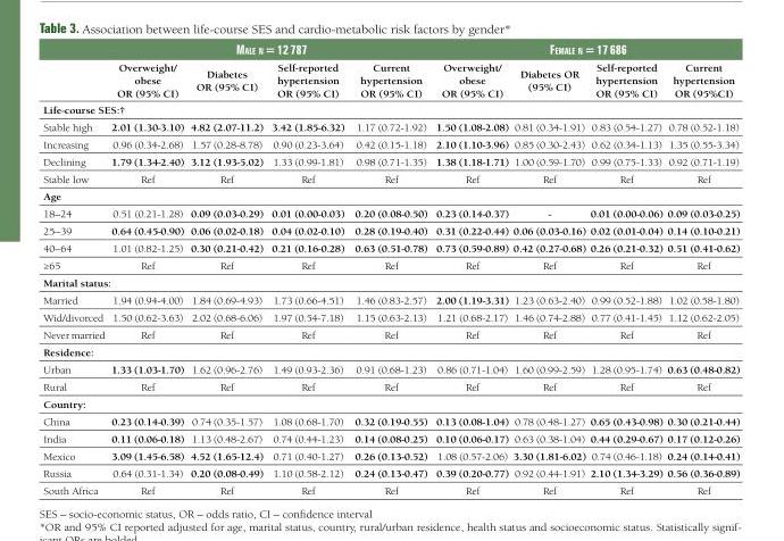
<table><thead><tr><td rowspan="2"></td><td colspan="4">Male n = 12 787</td><td colspan="4">feMale n = 17 686</td></tr><tr><td>Overweight/ obese OR (95% CI)</td><td>Diabetes OR (95% CI)</td><td>Self-reported hypertension OR (95% CI)</td><td>Current hypertension OR (95% CI)</td><td>Overweight/ obese OR (95% CI)</td><td>Diabetes OR (95% CI)</td><td>Self-reported hypertension OR (95% CI)</td><td>Current hypertension OR (95%CI)</td></tr></thead><tbody><tr><td colspan="9">Life-course SES:†</td></tr><tr><td>Stable high</td><td>2.01 (1.30-3.10)</td><td>4.82 (2.07-11.2)</td><td>3.42 (1.85-6.32)</td><td>1.17 (0.72-1.92)</td><td>1.50 (1.08-2.08)</td><td>0.81 (0.34-1.91)</td><td>0.83 (0.54-1.27)</td><td>0.78 (0.52-1.18)</td></tr><tr><td>Increasing</td><td>0.96 (0.34-2.68)</td><td>1.57 (0.28-8.78)</td><td>0.90 (0.23-3.64)</td><td>0.42 (0.15-1.18)</td><td>2.10 (1.10-3.96)</td><td>0.85 (0.30-2.43)</td><td>0.62 (0.34-1.13)</td><td>1.35 (0.55-3.34)</td></tr><tr><td>Declining</td><td>1.79 (1.34-2.40)</td><td>3.12 (1.93-5.02)</td><td>1.33 (0.99-1.81)</td><td>0.98 (0.71-1.35)</td><td>1.38 (1.18-1.71)</td><td>1.00 (0.59-1.70)</td><td>0.99 (0.75-1.33)</td><td>0.92 (0.71-1.19)</td></tr><tr><td>Stable low</td><td>Ref</td><td>Ref</td><td>Ref</td><td>Ref</td><td>Ref</td><td>Ref</td><td>Ref</td><td>Ref</td></tr><tr><td colspan="9">Age</td></tr><tr><td>18–24</td><td>0.51 (0.21-1.28)</td><td>0.09 (0.03-0.29)</td><td>0.01 (0.00-0.03)</td><td>0.20 (0.08-0.50)</td><td>0.23 (0.14-0.37)</td><td>-</td><td>0.01 (0.00-0.06)</td><td>0.09 (0.03-0.25)</td></tr><tr><td>25–39</td><td>0.64 (0.45-0.90)</td><td>0.06 (0.02-0.18)</td><td>0.04 (0.02-0.10)</td><td>0.28 (0.19-0.40)</td><td>0.31 (0.22-0.44)</td><td>0.06 (0.03-0.16)</td><td>0.02 (0.01-0.04)</td><td>0.14 (0.10-0.21)</td></tr><tr><td>40–64</td><td>1.01 (0.82-1.25)</td><td>0.30 (0.21-0.42)</td><td>0.21 (0.16-0.28)</td><td>0.63 (0.51-0.78)</td><td>0.73 (0.59-0.89)</td><td>0.42 (0.27-0.68)</td><td>0.26 (0.21-0.32)</td><td>0.51 (0.41-0.62)</td></tr><tr><td>≥65</td><td>Ref</td><td>Ref</td><td>Ref</td><td>Ref</td><td>Ref</td><td>Ref</td><td>Ref</td><td>Ref</td></tr><tr><td colspan="9">Marital status:</td></tr><tr><td>Married</td><td>1.94 (0.94-4.00)</td><td>1.84 (0.69-4.93)</td><td>1.73 (0.66-4.51)</td><td>1.46 (0.83-2.57)</td><td>2.00 (1.19-3.31)</td><td>1.23 (0.63-2.40)</td><td>0.99 (0.52-1.88)</td><td>1.02 (0.58-1.80)</td></tr><tr><td>Wid/divorced</td><td>1.50 (0.62-3.63)</td><td>2.02 (0.68-6.06)</td><td>1.97 (0.54-7.18)</td><td>1.15 (0.63-2.13)</td><td>1.21 (0.68-2.17)</td><td>1.46 (0.74-2.88)</td><td>0.77 (0.41-1.45)</td><td>1.12 (0.62-2.05)</td></tr><tr><td>Never married</td><td>Ref</td><td>Ref</td><td>Ref</td><td>Ref</td><td>Ref</td><td>Ref</td><td>Ref</td><td>Ref</td></tr><tr><td colspan="9">Residence:</td></tr><tr><td>Urban</td><td>1.33 (1.03-1.70)</td><td>1.62 (0.96-2.76)</td><td>1.49 (0.93-2.36)</td><td>0.91 (0.68-1.23)</td><td>0.86 (0.71-1.04)</td><td>1.60 (0.99-2.59)</td><td>1.28 (0.95-1.74)</td><td>0.63 (0.48-0.82)</td></tr><tr><td>Rural</td><td>Ref</td><td>Ref</td><td>Ref</td><td>Ref</td><td>Ref</td><td>Ref</td><td>Ref</td><td>Ref</td></tr><tr><td colspan="9">Country:</td></tr><tr><td>China</td><td>0.23 (0.14-0.39)</td><td>0.74 (0.35-1.57)</td><td>1.08 (0.68-1.70)</td><td>0.32 (0.19-0.55)</td><td>0.13 (0.08-1.04)</td><td>0.78 (0.48-1.27)</td><td>0.65 (0.43-0.98)</td><td>0.30 (0.21-0.44)</td></tr><tr><td>India</td><td>0.11 (0.06-0.18)</td><td>1.13 (0.48-2.67)</td><td>0.74 (0.44-1.23)</td><td>0.14 (0.08-0.25)</td><td>0.10 (0.06-0.17)</td><td>0.63 (0.38-1.04)</td><td>0.44 (0.29-0.67)</td><td>0.17 (0.12-0.26)</td></tr><tr><td>Mexico</td><td>3.09 (1.45-6.58)</td><td>4.52 (1.65-12.4)</td><td>0.71 (0.40-1.27)</td><td>0.26 (0.13-0.52)</td><td>1.08 (0.57-2.06)</td><td>3.30 (1.81-6.02)</td><td>0.74 (0.46-1.18)</td><td>0.24 (0.14-0.41)</td></tr><tr><td>Russia</td><td>0.64 (0.31-1.34)</td><td>0.20 (0.08-0.49)</td><td>1.10 (0.58-2.12)</td><td>0.24 (0.13-0.47)</td><td>0.39 (0.20-0.77)</td><td>0.92 (0.44-1.91)</td><td>2.10 (1.34-3.29)</td><td>0.56 (0.36-0.89)</td></tr><tr><td>South Africa</td><td>Ref</td><td>Ref</td><td>Ref</td><td>Ref</td><td>Ref</td><td>Ref</td><td>Ref</td><td>Ref</td></tr></tbody></table>